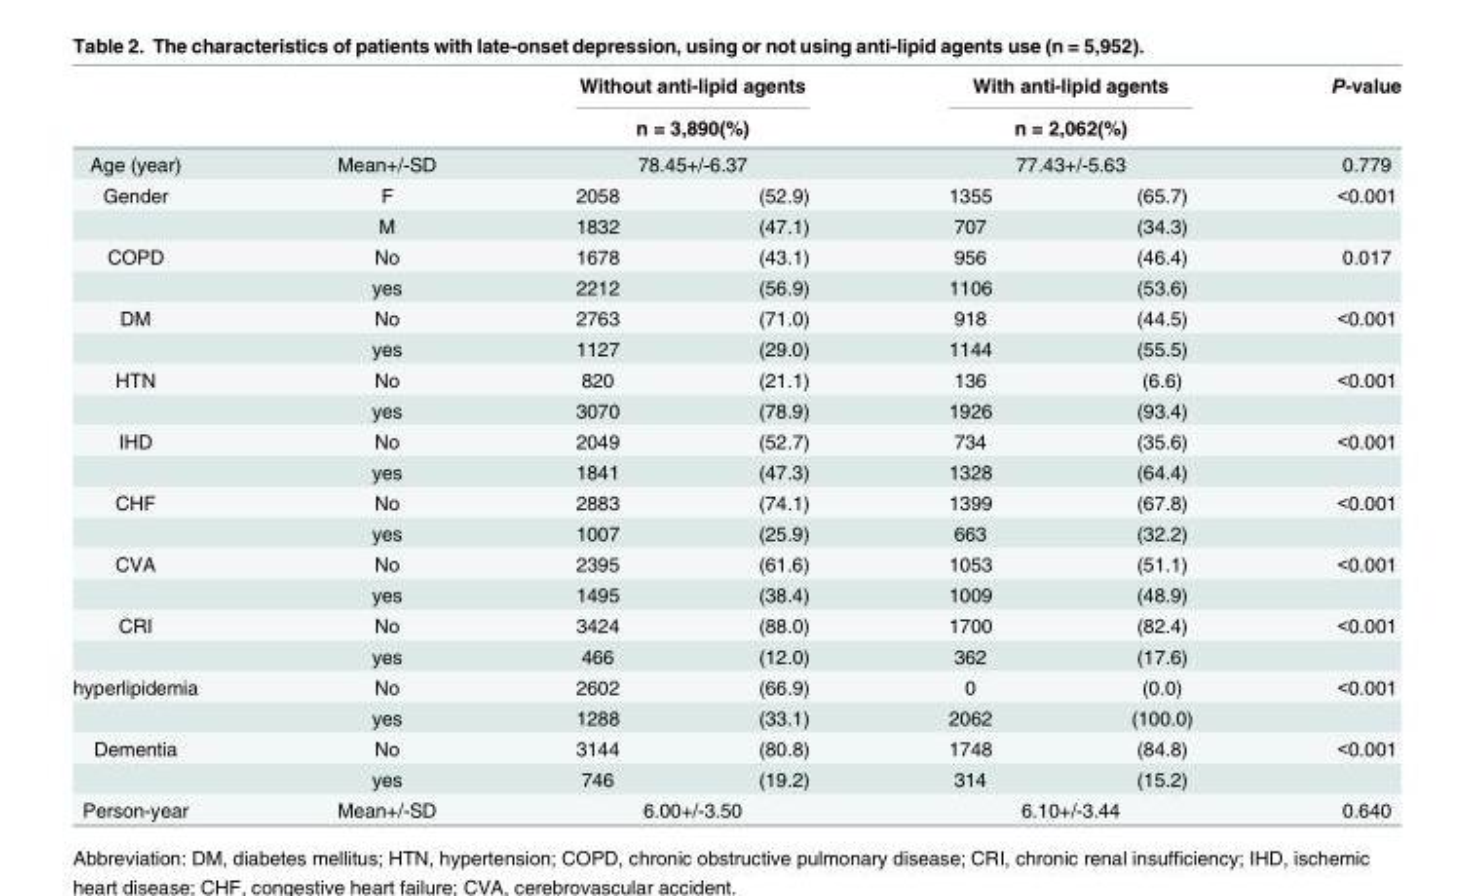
<table><thead><tr><td rowspan="4">Age (year) Gender</td><td rowspan="4">Mean+/-SD F</td><td rowspan="3" colspan="2">Without anti-lipid agents n = 3,890(%) 78.45+/-6.37</td><td rowspan="3" colspan="2">With anti-lipid agents n = 2,062(%) 77.43+/-5.63</td><td rowspan="4">P-value 0.779 &lt;0.001</td></tr><tr></tr><tr></tr><tr><td>2058</td><td>(52.9)</td><td>1355</td><td>(65.7)</td></tr></thead><tbody><tr><td></td><td>M</td><td>1832</td><td>(47.1)</td><td>707</td><td>(34.3)</td><td></td></tr><tr><td rowspan="2">COPD</td><td>No</td><td>1678</td><td>(43.1)</td><td>956</td><td>(46.4)</td><td>0.017</td></tr><tr><td>yes</td><td>2212</td><td>(56.9)</td><td>1106</td><td>(53.6)</td><td></td></tr><tr><td rowspan="2">DM</td><td>No</td><td>2763</td><td>(71.0)</td><td>918</td><td>(44.5)</td><td>&lt;0.001</td></tr><tr><td>yes</td><td>1127</td><td>(29.0)</td><td>1144</td><td>(55.5)</td><td></td></tr><tr><td rowspan="2">HTN</td><td>No</td><td>820</td><td>(21.1)</td><td>136</td><td>(6.6)</td><td>&lt;0.001</td></tr><tr><td>yes</td><td>3070</td><td>(78.9)</td><td>1926</td><td>(93.4)</td><td></td></tr><tr><td rowspan="2">IHD</td><td>No</td><td>2049</td><td>(52.7)</td><td>734</td><td>(35.6)</td><td>&lt;0.001</td></tr><tr><td>yes</td><td>1841</td><td>(47.3)</td><td>1328</td><td>(64.4)</td><td></td></tr><tr><td rowspan="2">CHF</td><td>No</td><td>2883</td><td>(74.1)</td><td>1399</td><td>(67.8)</td><td>&lt;0.001</td></tr><tr><td>yes</td><td>1007</td><td>(25.9)</td><td>663</td><td>(32.2)</td><td></td></tr><tr><td rowspan="2">CVA</td><td>No</td><td>2395</td><td>(61.6)</td><td>1053</td><td>(51.1)</td><td>&lt;0.001</td></tr><tr><td>yes</td><td>1495</td><td>(38.4)</td><td>1009</td><td>(48.9)</td><td></td></tr><tr><td rowspan="2">CRI</td><td>No</td><td>3424</td><td>(88.0)</td><td>1700</td><td>(82.4)</td><td>&lt;0.001</td></tr><tr><td>yes</td><td>466</td><td>(12.0)</td><td>362</td><td>(17.6)</td><td></td></tr><tr><td rowspan="2">hyperlipidemia</td><td>No</td><td>2602</td><td>(66.9)</td><td>0</td><td>(0.0)</td><td>&lt;0.001</td></tr><tr><td>yes</td><td>1288</td><td>(33.1)</td><td>2062</td><td>(100.0)</td><td></td></tr><tr><td rowspan="2">Dementia</td><td>No</td><td>3144</td><td>(80.8)</td><td>1748</td><td>(84.8)</td><td>&lt;0.001</td></tr><tr><td>yes</td><td>746</td><td>(19.2)</td><td>314</td><td>(15.2)</td><td></td></tr><tr><td>Person-year</td><td>Mean+/-SD</td><td colspan="2">6.00+/-3.50</td><td colspan="2">6.10+/-3.44</td><td>0.640</td></tr></tbody></table>